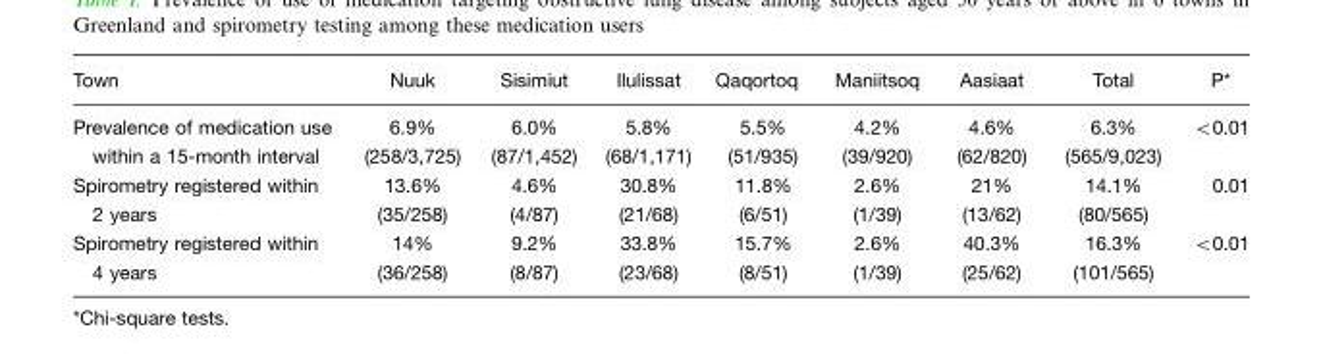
<table><thead><tr><td>Town</td><td>Nuuk</td><td>Sisimiut</td><td>Ilulissat</td><td>Qaqortoq</td><td>Maniitsoq</td><td>Aasiaat</td><td>Total</td><td>P*</td></tr></thead><tbody><tr><td>Prevalence of medication use within a 15-month interval</td><td>6.9% (258/3,725)</td><td>6.0% (87/1,452)</td><td>5.8% (68/1,171)</td><td>5.5% (51/935)</td><td>4.2% (39/920)</td><td>4.6% (62/820)</td><td>6.3% (565/9,023)</td><td>&lt;0.01</td></tr><tr><td>Spirometry registered within 2 years</td><td>13.6% (35/258)</td><td>4.6% (4/87)</td><td>30.8% (21/68)</td><td>11.8% (6/51)</td><td>2.6% (1/39)</td><td>21% (13/62)</td><td>14.1% (80/565)</td><td>0.01</td></tr><tr><td>Spirometry registered within 4 years</td><td>14% (36/258)</td><td>9.2% (8/87)</td><td>33.8% (23/68)</td><td>15.7% (8/51)</td><td>2.6% (1/39)</td><td>40.3% (25/62)</td><td>16.3% (101/565)</td><td>&lt;0.01</td></tr></tbody></table>